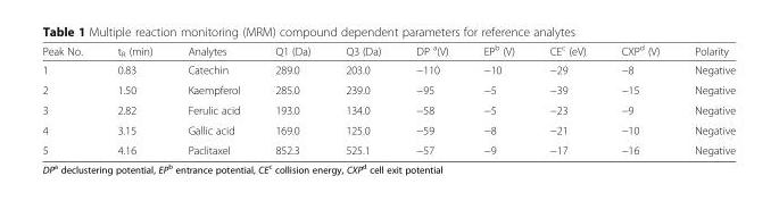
<table><thead><tr><td>Peak No.</td><td>t<sub>R</sub> (min)</td><td>Analytes</td><td>Q1 (Da)</td><td>Q3 (Da)</td><td>DP <sup>a</sup>(V)</td><td>EP<sup>b</sup> (V)</td><td>CE<sup>c</sup> (eV)</td><td>CXP<sup>d</sup> (V)</td><td>Polarity</td></tr></thead><tbody><tr><td>1</td><td>0.83</td><td>Catechin</td><td>289.0</td><td>203.0</td><td>−110</td><td>−10</td><td>−29</td><td>−8</td><td>Negative</td></tr><tr><td>2</td><td>1.50</td><td>Kaempferol</td><td>285.0</td><td>239.0</td><td>−95</td><td>−5</td><td>−39</td><td>−15</td><td>Negative</td></tr><tr><td>3</td><td>2.82</td><td>Ferulic acid</td><td>193.0</td><td>134.0</td><td>−58</td><td>−5</td><td>−23</td><td>−9</td><td>Negative</td></tr><tr><td>4</td><td>3.15</td><td>Gallic acid</td><td>169.0</td><td>125.0</td><td>−59</td><td>−8</td><td>−21</td><td>−10</td><td>Negative</td></tr><tr><td>5</td><td>4.16</td><td>Paclitaxel</td><td>852.3</td><td>525.1</td><td>−57</td><td>−9</td><td>−17</td><td>−16</td><td>Negative</td></tr></tbody></table>